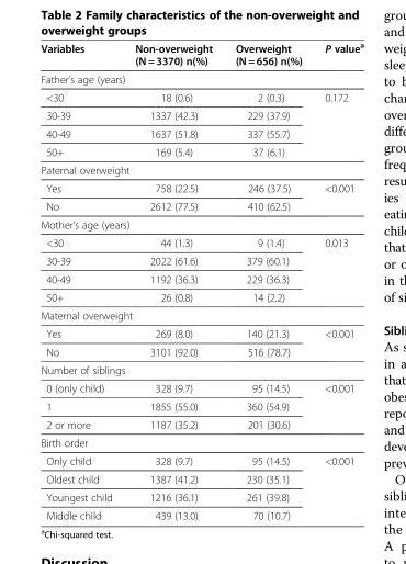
<table><thead><tr><td>Variables</td><td>Non-overweight (N = 3370) n(%)</td><td>Overweight (N = 656) n(%)</td><td>P value<sup>a</sup></td></tr></thead><tbody><tr><td colspan="4">Father’s age (years)</td></tr><tr><td>&lt;30</td><td>18 (0.6)</td><td>2 (0.3)</td><td rowspan="4">0.172</td></tr><tr><td>30-39</td><td>1337 (42.3)</td><td>229 (37.9)</td></tr><tr><td>40-49</td><td>1637 (51.8)</td><td>337 (55.7)</td></tr><tr><td>50+</td><td>169 (5.4)</td><td>37 (6.1)</td></tr><tr><td colspan="4">Paternal overweight</td></tr><tr><td>Yes</td><td>758 (22.5)</td><td>246 (37.5)</td><td rowspan="2">&lt;0.001</td></tr><tr><td>No</td><td>2612 (77.5)</td><td>410 (62.5)</td></tr><tr><td colspan="4">Mother’s age (years)</td></tr><tr><td>&lt;30</td><td>44 (1.3)</td><td>9 (1.4)</td><td rowspan="4">0.013</td></tr><tr><td>30-39</td><td>2022 (61.6)</td><td>379 (60.1)</td></tr><tr><td>40-49</td><td>1192 (36.3)</td><td>229 (36.3)</td></tr><tr><td>50+</td><td>26 (0.8)</td><td>14 (2.2)</td></tr><tr><td colspan="4">Maternal overweight</td></tr><tr><td>Yes</td><td>269 (8.0)</td><td>140 (21.3)</td><td rowspan="2">&lt;0.001</td></tr><tr><td>No</td><td>3101 (92.0)</td><td>516 (78.7)</td></tr><tr><td colspan="4">Number of siblings</td></tr><tr><td>0 (only child)</td><td>328 (9.7)</td><td>95 (14.5)</td><td rowspan="3">&lt;0.001</td></tr><tr><td>1</td><td>1855 (55.0)</td><td>360 (54.9)</td></tr><tr><td>2 or more</td><td>1187 (35.2)</td><td>201 (30.6)</td></tr><tr><td colspan="4">Birth order</td></tr><tr><td>Only child</td><td>328 (9.7)</td><td>95 (14.5)</td><td rowspan="4">&lt;0.001</td></tr><tr><td>Oldest child</td><td>1387 (41.2)</td><td>230 (35.1)</td></tr><tr><td>Youngest child</td><td>1216 (36.1)</td><td>261 (39.8)</td></tr><tr><td>Middle child</td><td>439 (13.0)</td><td>70 (10.7)</td></tr></tbody></table>